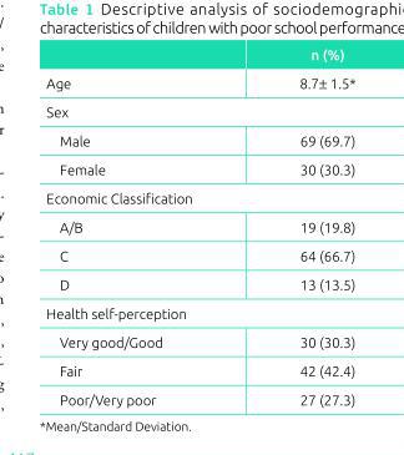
<table><thead><tr><td></td><td>n (%)</td></tr></thead><tbody><tr><td>Age</td><td>8.7± 1.5*</td></tr><tr><td colspan="2">Sex</td></tr><tr><td>Male</td><td>69 (69.7)</td></tr><tr><td>Female</td><td>30 (30.3)</td></tr><tr><td colspan="2">Economic Classification</td></tr><tr><td>A/B</td><td>19 (19.8)</td></tr><tr><td>C</td><td>64 (66.7)</td></tr><tr><td>D</td><td>13 (13.5)</td></tr><tr><td colspan="2">Health self‑perception</td></tr><tr><td>Very good/Good</td><td>30 (30.3)</td></tr><tr><td>Fair</td><td>42 (42.4)</td></tr><tr><td>Poor/Very poor</td><td>27 (27.3)</td></tr></tbody></table>